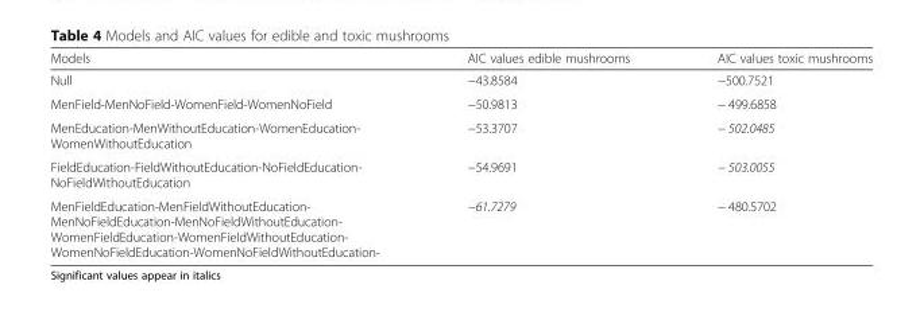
<table><thead><tr><td>Models</td><td>AIC values edible mushrooms</td><td>AIC values toxic mushrooms</td></tr></thead><tbody><tr><td>Null</td><td>−43.8584</td><td>−500.7521</td></tr><tr><td>MenField-MenNoField-WomenField-WomenNoField</td><td>−50.9813</td><td>− 499.6858</td></tr><tr><td>MenEducation-MenWithoutEducation-WomenEducation- WomenWithoutEducation</td><td>−53.3707</td><td>− 502.0485</td></tr><tr><td>FieldEducation-FieldWithoutEducation-NoFieldEducation- NoFieldWithoutEducation</td><td>−54.9691</td><td>− 503.0055</td></tr><tr><td>MenFieldEducation-MenFieldWithoutEducation- MenNoFieldEducation-MenNoFieldWithoutEducation- WomenFieldEducation-WomenFieldWithoutEducation- WomenNoFieldEducation-WomenNoFieldWithoutEducation-</td><td>−61.7279</td><td>− 480.5702</td></tr></tbody></table>